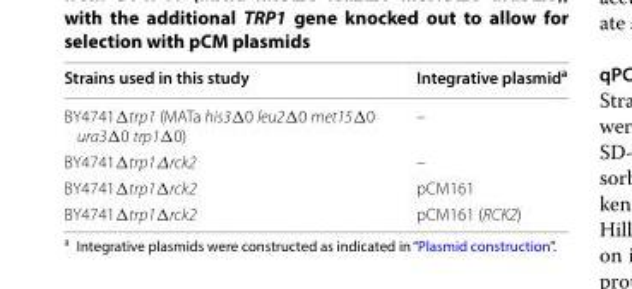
<table><thead><tr><td>Strains used in this study</td><td>Integrative plasmid<sup>a</sup></td></tr></thead><tbody><tr><td>BY4741Δtrp1 (MATa his3Δ0 leu2Δ0 met15Δ0 ura3Δ0 trp1Δ0)</td><td>–</td></tr><tr><td>BY4741Δtrp1Δrck2</td><td>–</td></tr><tr><td>BY4741Δtrp1Δrck2</td><td>pCM161</td></tr><tr><td>BY4741Δtrp1Δrck2</td><td>pCM161 (RCK2)</td></tr></tbody></table>